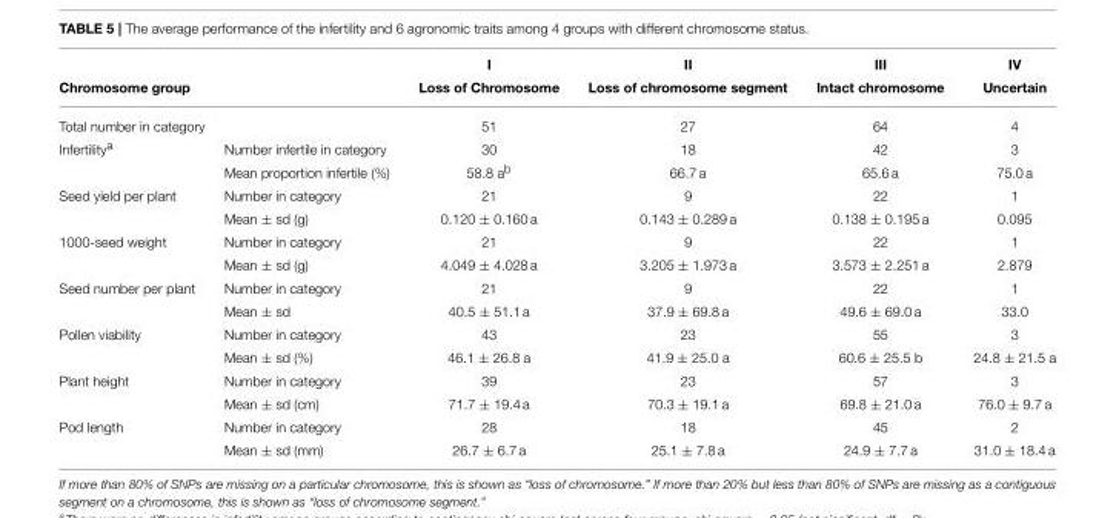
<table><thead><tr><td rowspan="2">Chromosome group</td><td rowspan="2"></td><td rowspan="2">I Loss of Chromosome</td><td rowspan="2">II Loss of chromosome segment</td><td rowspan="2">III Intact chromosome</td><td rowspan="2">IV Uncertain</td></tr><tr></tr></thead><tbody><tr><td colspan="2">Total number in category</td><td>51</td><td>27</td><td>64</td><td>4</td></tr><tr><td rowspan="2">Infertility<sup>a</sup></td><td>Number infertile in category</td><td>30</td><td>18</td><td>42</td><td>3</td></tr><tr><td>Mean proportion infertile (%)</td><td>58.8 a<sup>b</sup></td><td>66.7 a</td><td>65.6 a</td><td>75.0 a</td></tr><tr><td rowspan="2">Seed yield per plant</td><td>Number in category</td><td>21</td><td>9</td><td>22</td><td>1</td></tr><tr><td>Mean ± sd (g)</td><td>0.120 ± 0.160 a</td><td>0.143 ± 0.289 a</td><td>0.138 ± 0.195 a</td><td>0.095</td></tr><tr><td rowspan="2">1000-seed weight</td><td>Number in category</td><td>21</td><td>9</td><td>22</td><td>1</td></tr><tr><td>Mean ± sd (g)</td><td>4.049 ± 4.028 a</td><td>3.205 ± 1.973 a</td><td>3.573 ± 2.251 a</td><td>2.879</td></tr><tr><td rowspan="2">Seed number per plant</td><td>Number in category</td><td>21</td><td>9</td><td>22</td><td>1</td></tr><tr><td>Mean ± sd</td><td>40.5 ± 51.1 a</td><td>37.9 ± 69.8 a</td><td>49.6 ± 69.0 a</td><td>33.0</td></tr><tr><td rowspan="2">Pollen viability</td><td>Number in category</td><td>43</td><td>23</td><td>55</td><td>3</td></tr><tr><td>Mean ± sd (%)</td><td>46.1 ± 26.8 a</td><td>41.9 ± 25.0 a</td><td>60.6 ± 25.5 b</td><td>24.8 ± 21.5 a</td></tr><tr><td rowspan="2">Plant height</td><td>Number in category</td><td>39</td><td>23</td><td>57</td><td>3</td></tr><tr><td>Mean ± sd (cm)</td><td>71.7 ± 19.4 a</td><td>70.3 ± 19.1 a</td><td>69.8 ± 21.0 a</td><td>76.0 ± 9.7 a</td></tr><tr><td rowspan="2">Pod length</td><td>Number in category</td><td>28</td><td>18</td><td>45</td><td>2</td></tr><tr><td>Mean ± sd (mm)</td><td>26.7 ± 6.7 a</td><td>25.1 ± 7.8 a</td><td>24.9 ± 7.7 a</td><td>31.0 ± 18.4 a</td></tr></tbody></table>